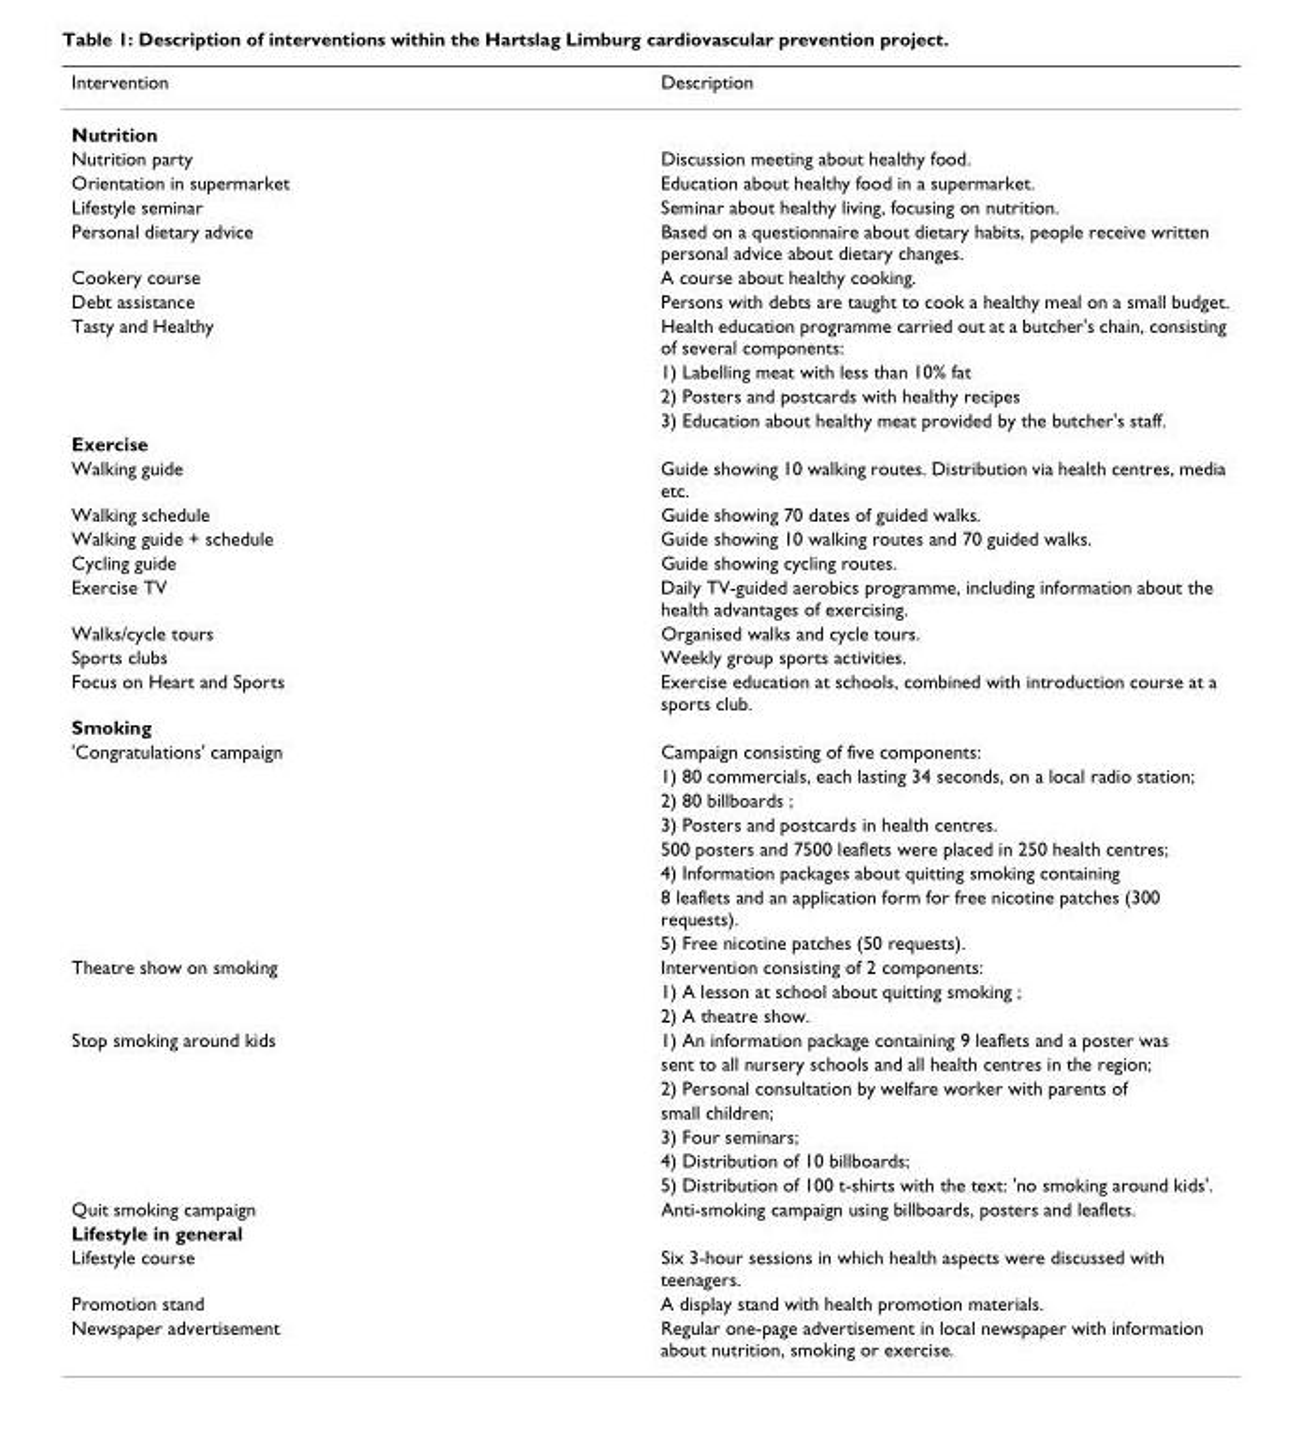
<table><thead><tr><td>Intervention</td><td>Description</td></tr></thead><tbody><tr><td colspan="2">Nutrition</td></tr><tr><td>Nutrition party</td><td>Discussion meeting about healthy food.</td></tr><tr><td>Orientation in supermarket</td><td>Education about healthy food in a supermarket.</td></tr><tr><td>Lifestyle seminar</td><td>Seminar about healthy living, focusing on nutrition.</td></tr><tr><td>Personal dietary advice</td><td>Based on a questionnaire about dietary habits, people receive written personal advice about dietary changes.</td></tr><tr><td>Cookery course</td><td>A course about healthy cooking.</td></tr><tr><td>Debt assistance</td><td>Persons with debts are taught to cook a healthy meal on a small budget.</td></tr><tr><td rowspan="4">Tasty and Healthy</td><td>Health education programme carried out at a butcher&#x27;s chain, consisting of several components:</td></tr><tr><td>1) Labelling meat with less than 10% fat</td></tr><tr><td>2) Posters and postcards with healthy recipes</td></tr><tr><td>3) Education about healthy meat provided by the butcher&#x27;s staff.</td></tr><tr><td colspan="2">Exercise</td></tr><tr><td>Walking guide</td><td>Guide showing 10 walking routes. Distribution via health centres, media etc.</td></tr><tr><td>Walking schedule</td><td>Guide showing 70 dates of guided walks.</td></tr><tr><td>Walking guide + schedule</td><td>Guide showing 10 walking routes and 70 guided walks.</td></tr><tr><td>Cycling guide</td><td>Guide showing cycling routes.</td></tr><tr><td>Exercise TV</td><td>Daily TV-guided aerobics programme, including information about the health advantages of exercising.</td></tr><tr><td>Walks/cycle tours</td><td>Organised walks and cycle tours.</td></tr><tr><td>Sports clubs</td><td>Weekly group sports activities.</td></tr><tr><td>Focus on Heart and Sports</td><td>Exercise education at schools, combined with introduction course at a sports club.</td></tr><tr><td colspan="2">Smoking</td></tr><tr><td rowspan="8">&#x27;Congratulations&#x27; campaign</td><td>Campaign consisting of five components:</td></tr><tr><td>1) 80 commercials, each lasting 34 seconds, on a local radio station;</td></tr><tr><td>2) 80 billboards ;</td></tr><tr><td>3) Posters and postcards in health centres.</td></tr><tr><td>500 posters and 7500 leaflets were placed in 250 health centres;</td></tr><tr><td>4) Information packages about quitting smoking containing</td></tr><tr><td>8 leaflets and an application form for free nicotine patches (300 requests).</td></tr><tr><td>5) Free nicotine patches (50 requests).</td></tr><tr><td rowspan="3">Theatre show on smoking</td><td>Intervention consisting of 2 components:</td></tr><tr><td>1) A lesson at school about quitting smoking ;</td></tr><tr><td>2) A theatre show.</td></tr><tr><td rowspan="7">Stop smoking around kids</td><td>1) An information package containing 9 leaflets and a poster was</td></tr><tr><td>sent to all nursery schools and all health centres in the region;</td></tr><tr><td>2) Personal consultation by welfare worker with parents of</td></tr><tr><td>small children;</td></tr><tr><td>3) Four seminars;</td></tr><tr><td>4) Distribution of 10 billboards;</td></tr><tr><td>5) Distribution of 100 t-shirts with the text: &#x27;no smoking around kids&#x27;.</td></tr><tr><td>Quit smoking campaign</td><td>Anti-smoking campaign using billboards, posters and leaflets.</td></tr><tr><td colspan="2">Lifestyle in general</td></tr><tr><td>Lifestyle course</td><td>Six 3-hour sessions in which health aspects were discussed with teenagers.</td></tr><tr><td>Promotion stand</td><td>A display stand with health promotion materials.</td></tr><tr><td>Newspaper advertisement</td><td>Regular one-page advertisement in local newspaper with information about nutrition, smoking or exercise.</td></tr></tbody></table>